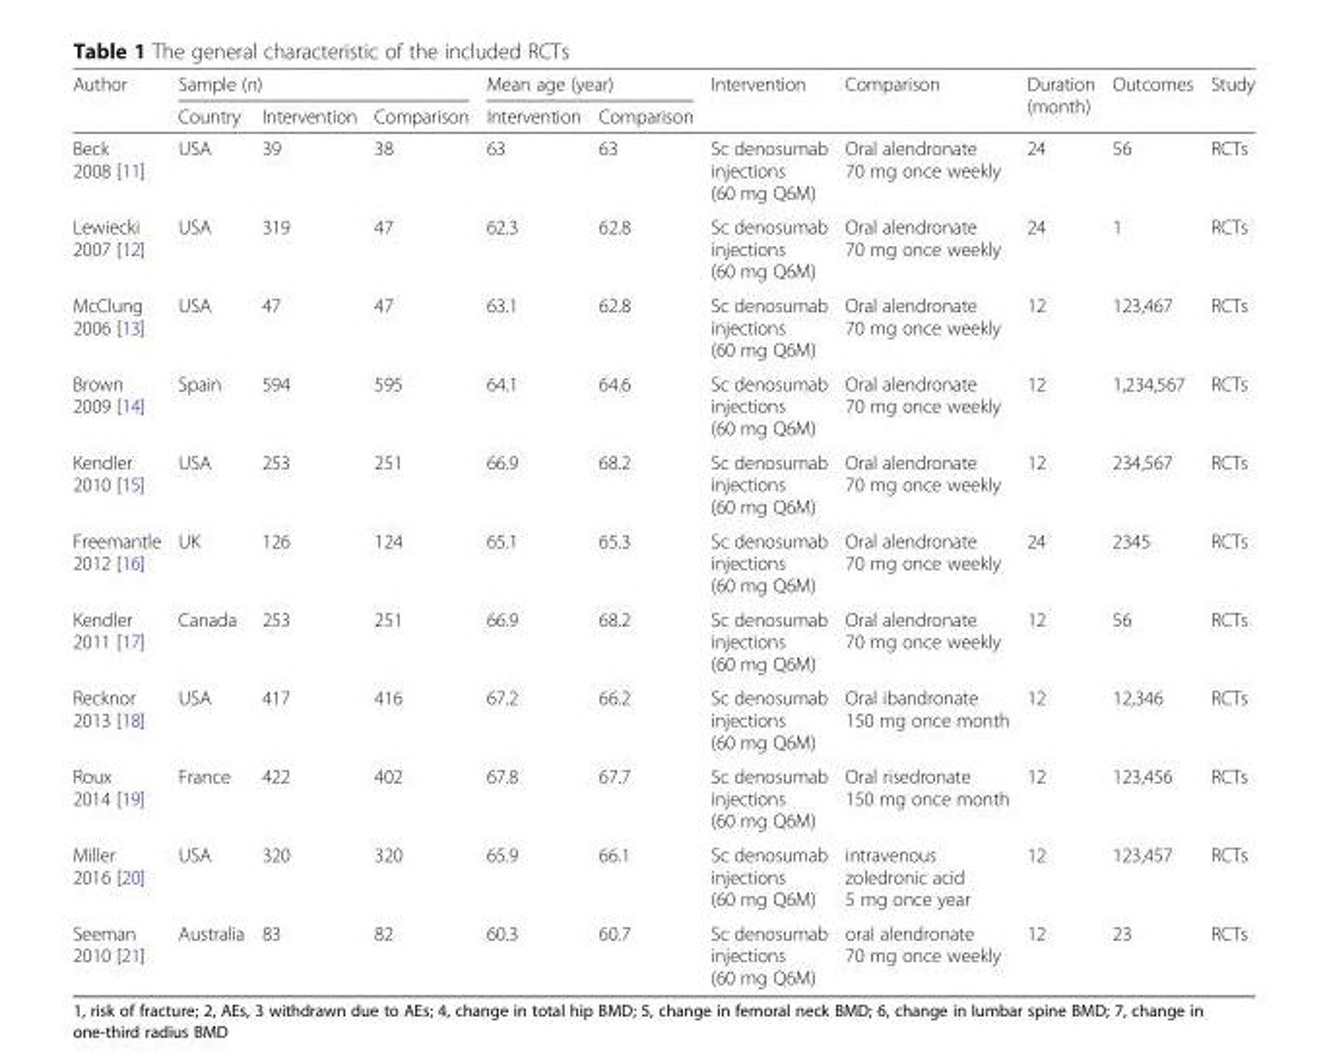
<table><thead><tr><td rowspan="2">Author</td><td colspan="3">Sample (n)</td><td colspan="2">Mean age (year)</td><td rowspan="2">Intervention</td><td rowspan="2">Comparison</td><td rowspan="2">Duration (month)</td><td rowspan="2">Outcomes</td><td rowspan="2">Study</td></tr><tr><td>Country</td><td>Intervention</td><td>Comparison</td><td>Intervention</td><td>Comparison</td></tr></thead><tbody><tr><td>Beck 2008 [11]</td><td>USA</td><td>39</td><td>38</td><td>63</td><td>63</td><td>Sc denosumab injections (60 mg Q6M)</td><td>Oral alendronate 70 mg once weekly</td><td>24</td><td>56</td><td>RCTs</td></tr><tr><td>Lewiecki 2007 [12]</td><td>USA</td><td>319</td><td>47</td><td>62.3</td><td>62.8</td><td>Sc denosumab injections (60 mg Q6M)</td><td>Oral alendronate 70 mg once weekly</td><td>24</td><td>1</td><td>RCTs</td></tr><tr><td>McClung 2006 [13]</td><td>USA</td><td>47</td><td>47</td><td>63.1</td><td>62.8</td><td>Sc denosumab injections (60 mg Q6M)</td><td>Oral alendronate 70 mg once weekly</td><td>12</td><td>123,467</td><td>RCTs</td></tr><tr><td>Brown 2009 [14]</td><td>Spain</td><td>594</td><td>595</td><td>64.1</td><td>64.6</td><td>Sc denosumab injections (60 mg Q6M)</td><td>Oral alendronate 70 mg once weekly</td><td>12</td><td>1,234,567</td><td>RCTs</td></tr><tr><td>Kendler 2010 [15]</td><td>USA</td><td>253</td><td>251</td><td>66.9</td><td>68.2</td><td>Sc denosumab injections (60 mg Q6M)</td><td>Oral alendronate 70 mg once weekly</td><td>12</td><td>234,567</td><td>RCTs</td></tr><tr><td>Freemantle 2012 [16]</td><td>UK</td><td>126</td><td>124</td><td>65.1</td><td>65.3</td><td>Sc denosumab injections (60 mg Q6M)</td><td>Oral alendronate 70 mg once weekly</td><td>24</td><td>2345</td><td>RCTs</td></tr><tr><td>Kendler 2011 [17]</td><td>Canada</td><td>253</td><td>251</td><td>66.9</td><td>68.2</td><td>Sc denosumab injections (60 mg Q6M)</td><td>Oral alendronate 70 mg once weekly</td><td>12</td><td>56</td><td>RCTs</td></tr><tr><td>Recknor 2013 [18]</td><td>USA</td><td>417</td><td>416</td><td>67.2</td><td>66.2</td><td>Sc denosumab injections (60 mg Q6M)</td><td>Oral ibandronate 150 mg once month</td><td>12</td><td>12,346</td><td>RCTs</td></tr><tr><td>Roux 2014 [19]</td><td>France</td><td>422</td><td>402</td><td>67.8</td><td>67.7</td><td>Sc denosumab injections (60 mg Q6M)</td><td>Oral risedronate 150 mg once month</td><td>12</td><td>123,456</td><td>RCTs</td></tr><tr><td>Miller 2016 [20]</td><td>USA</td><td>320</td><td>320</td><td>65.9</td><td>66.1</td><td>Sc denosumab injections (60 mg Q6M)</td><td>intravenous zoledronic acid 5 mg once year</td><td>12</td><td>123,457</td><td>RCTs</td></tr><tr><td>Seeman 2010 [21]</td><td>Australia</td><td>83</td><td>82</td><td>60.3</td><td>60.7</td><td>Sc denosumab injections (60 mg Q6M)</td><td>oral alendronate 70 mg once weekly</td><td>12</td><td>23</td><td>RCTs</td></tr></tbody></table>